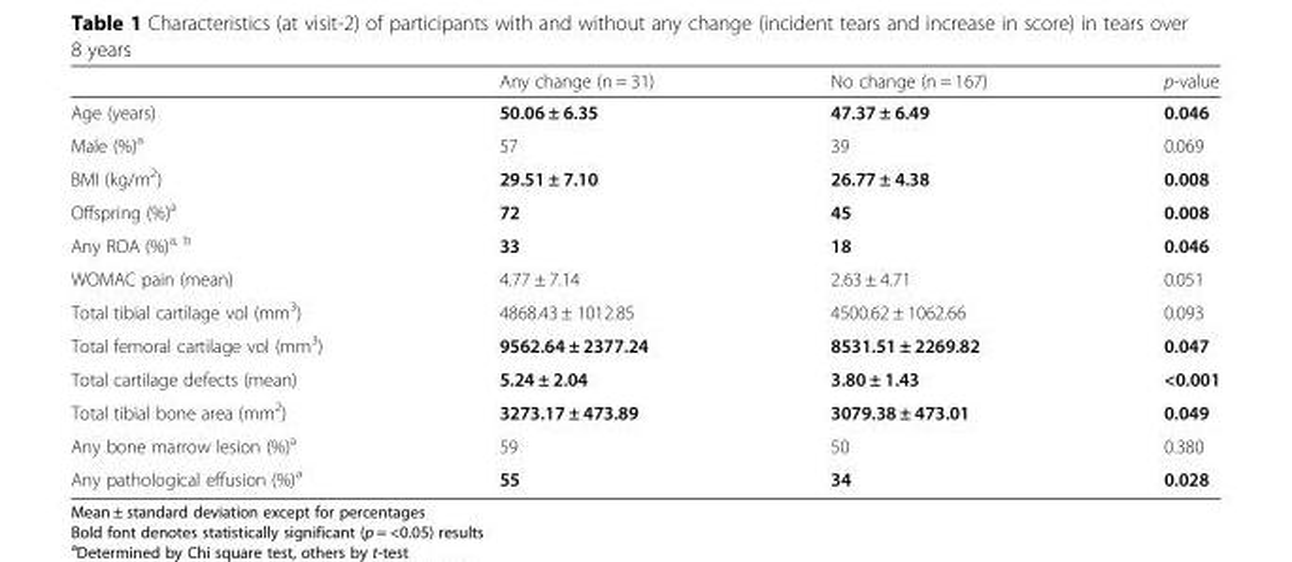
<table><thead><tr><td></td><td>Any change (n = 31)</td><td>No change (n = 167)</td><td>p-value</td></tr></thead><tbody><tr><td>Age (years)</td><td>50.06 ± 6.35</td><td>47.37 ± 6.49</td><td>0.046</td></tr><tr><td>Male (%)<sup>a</sup></td><td>57</td><td>39</td><td>0.069</td></tr><tr><td>BMI (kg/m<sup>2</sup>)</td><td>29.51 ± 7.10</td><td>26.77 ± 4.38</td><td>0.008</td></tr><tr><td>Offspring (%)<sup>a</sup></td><td>72</td><td>45</td><td>0.008</td></tr><tr><td>Any ROA (%)<sup>a, b</sup></td><td>33</td><td>18</td><td>0.046</td></tr><tr><td>WOMAC pain (mean)</td><td>4.77 ± 7.14</td><td>2.63 ± 4.71</td><td>0.051</td></tr><tr><td>Total tibial cartilage vol (mm<sup>3</sup>)</td><td>4868.43 ± 1012.85</td><td>4500.62 ± 1062.66</td><td>0.093</td></tr><tr><td>Total femoral cartilage vol (mm<sup>3</sup>)</td><td>9562.64 ± 2377.24</td><td>8531.51 ± 2269.82</td><td>0.047</td></tr><tr><td>Total cartilage defects (mean)</td><td>5.24 ± 2.04</td><td>3.80 ± 1.43</td><td>&lt;0.001</td></tr><tr><td>Total tibial bone area (mm<sup>2</sup>)</td><td>3273.17 ± 473.89</td><td>3079.38 ± 473.01</td><td>0.049</td></tr><tr><td>Any bone marrow lesion (%)<sup>a</sup></td><td>59</td><td>50</td><td>0.380</td></tr><tr><td>Any pathological effusion (%)<sup>a</sup></td><td>55</td><td>34</td><td>0.028</td></tr></tbody></table>